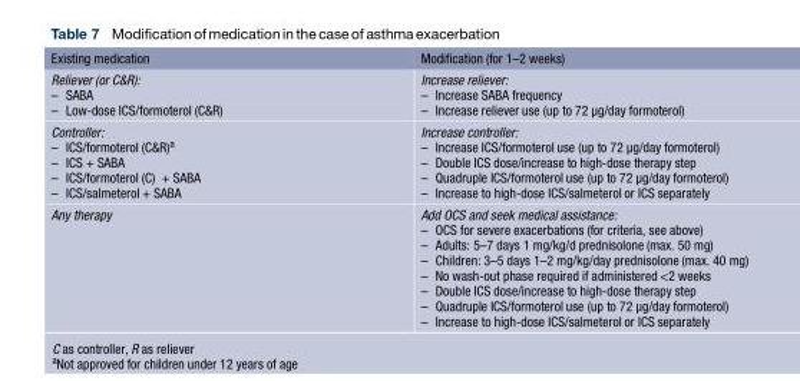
<table><thead><tr><td>Existing medication</td><td>Modification (for 1–2 weeks)</td></tr></thead><tbody><tr><td>Reliever (or C&amp;R): – SABA – Low-dose ICS/formoterol (C&amp;R)</td><td>Increase reliever: – Increase SABA frequency – Increase reliever use (up to 72 µg/day formoterol)</td></tr><tr><td>Controller: – ICS/formoterol (C&amp;R)<sup>a</sup> – ICS + SABA – ICS/formoterol (C) + SABA – ICS/salmeterol + SABA</td><td>Increase controller: – Increase ICS/formoterol use (up to 72 µg/day formoterol) – Double ICS dose/increase to high-dose therapy step – Quadruple ICS/formoterol use (up to 72 µg/day formoterol) – Increase to high-dose ICS/salmeterol or ICS separately</td></tr><tr><td>Any therapy</td><td>Add OCS and seek medical assistance: – OCS for severe exacerbations (for criteria, see above) – Adults: 5–7 days 1 mg/kg/d prednisolone (max. 50 mg) – Children: 3–5 days 1–2 mg/kg/day prednisolone (max. 40 mg) – No wash-out phase required if administered &lt;2 weeks – Double ICS dose/increase to high-dose therapy step – Quadruple ICS/formoterol use (up to 72 µg/day formoterol) – Increase to high-dose ICS/salmeterol or ICS separately</td></tr></tbody></table>